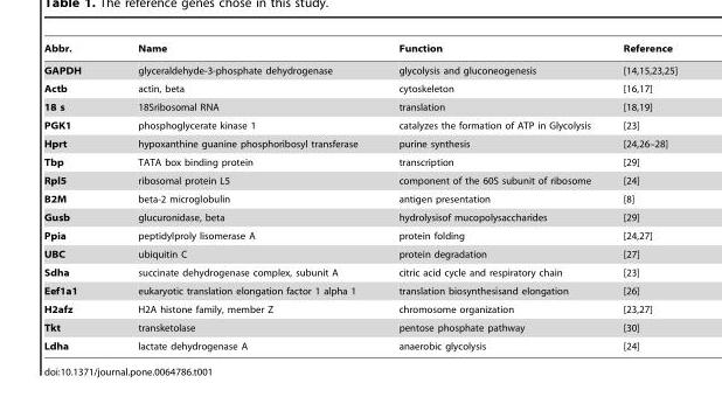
<table><thead><tr><td>Abbr.</td><td>Name</td><td>Function</td><td>Reference</td></tr></thead><tbody><tr><td>GAPDH</td><td>glyceraldehyde-3-phosphate dehydrogenase</td><td>glycolysis and gluconeogenesis</td><td>[14,15,23,25]</td></tr><tr><td>Actb</td><td>actin, beta</td><td>cytoskeleton</td><td>[16,17]</td></tr><tr><td>18 s</td><td>18Sribosomal RNA</td><td>translation</td><td>[18,19]</td></tr><tr><td>PGK1</td><td>phosphoglycerate kinase 1</td><td>catalyzes the formation of ATP in Glycolysis</td><td>[23]</td></tr><tr><td>Hprt</td><td>hypoxanthine guanine phosphoribosyl transferase</td><td>purine synthesis</td><td>[24,26–28]</td></tr><tr><td>Tbp</td><td>TATA box binding protein</td><td>transcription</td><td>[29]</td></tr><tr><td>Rpl5</td><td>ribosomal protein L5</td><td>component of the 60S subunit of ribosome</td><td>[24]</td></tr><tr><td>B2M</td><td>beta-2 microglobulin</td><td>antigen presentation</td><td>[8]</td></tr><tr><td>Gusb</td><td>glucuronidase, beta</td><td>hydrolysisof mucopolysaccharides</td><td>[29]</td></tr><tr><td>Ppia</td><td>peptidylproly lisomerase A</td><td>protein folding</td><td>[24,27]</td></tr><tr><td>UBC</td><td>ubiquitin C</td><td>protein degradation</td><td>[27]</td></tr><tr><td>Sdha</td><td>succinate dehydrogenase complex, subunit A</td><td>citric acid cycle and respiratory chain</td><td>[23]</td></tr><tr><td>Eef1a1</td><td>eukaryotic translation elongation factor 1 alpha 1</td><td>translation biosynthesisand elongation</td><td>[26]</td></tr><tr><td>H2afz</td><td>H2A histone family, member Z</td><td>chromosome organization</td><td>[23,27]</td></tr><tr><td>Tkt</td><td>transketolase</td><td>pentose phosphate pathway</td><td>[30]</td></tr><tr><td>Ldha</td><td>lactate dehydrogenase A</td><td>anaerobic glycolysis</td><td>[24]</td></tr></tbody></table>